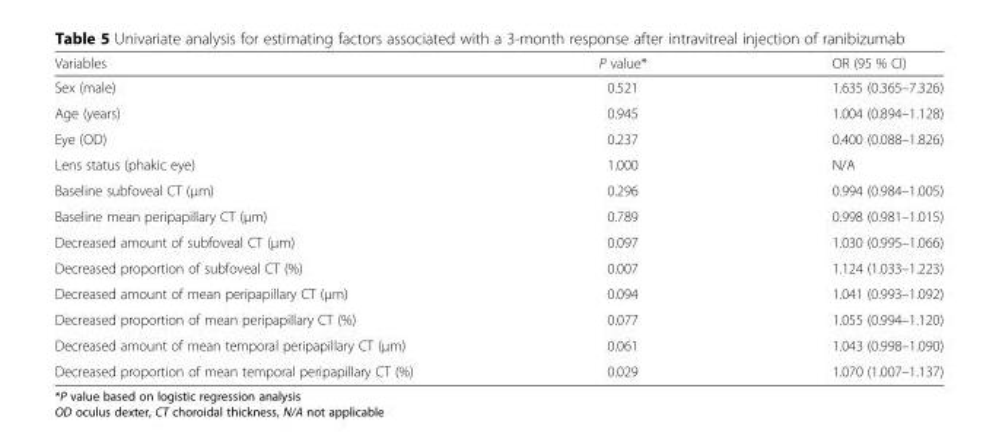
<table><thead><tr><td>Variables</td><td>P value*</td><td>OR (95 % CI)</td></tr></thead><tbody><tr><td>Sex (male)</td><td>0.521</td><td>1.635 (0.365–7.326)</td></tr><tr><td>Age (years)</td><td>0.945</td><td>1.004 (0.894–1.128)</td></tr><tr><td>Eye (OD)</td><td>0.237</td><td>0.400 (0.088–1.826)</td></tr><tr><td>Lens status (phakic eye)</td><td>1.000</td><td>N/A</td></tr><tr><td>Baseline subfoveal CT (μm)</td><td>0.296</td><td>0.994 (0.984–1.005)</td></tr><tr><td>Baseline mean peripapillary CT (μm)</td><td>0.789</td><td>0.998 (0.981–1.015)</td></tr><tr><td>Decreased amount of subfoveal CT (μm)</td><td>0.097</td><td>1.030 (0.995–1.066)</td></tr><tr><td>Decreased proportion of subfoveal CT (%)</td><td>0.007</td><td>1.124 (1.033–1.223)</td></tr><tr><td>Decreased amount of mean peripapillary CT (μm)</td><td>0.094</td><td>1.041 (0.993–1.092)</td></tr><tr><td>Decreased proportion of mean peripapillary CT (%)</td><td>0.077</td><td>1.055 (0.994–1.120)</td></tr><tr><td>Decreased amount of mean temporal peripapillary CT (μm)</td><td>0.061</td><td>1.043 (0.998–1.090)</td></tr><tr><td>Decreased proportion of mean temporal peripapillary CT (%)</td><td>0.029</td><td>1.070 (1.007–1.137)</td></tr></tbody></table>